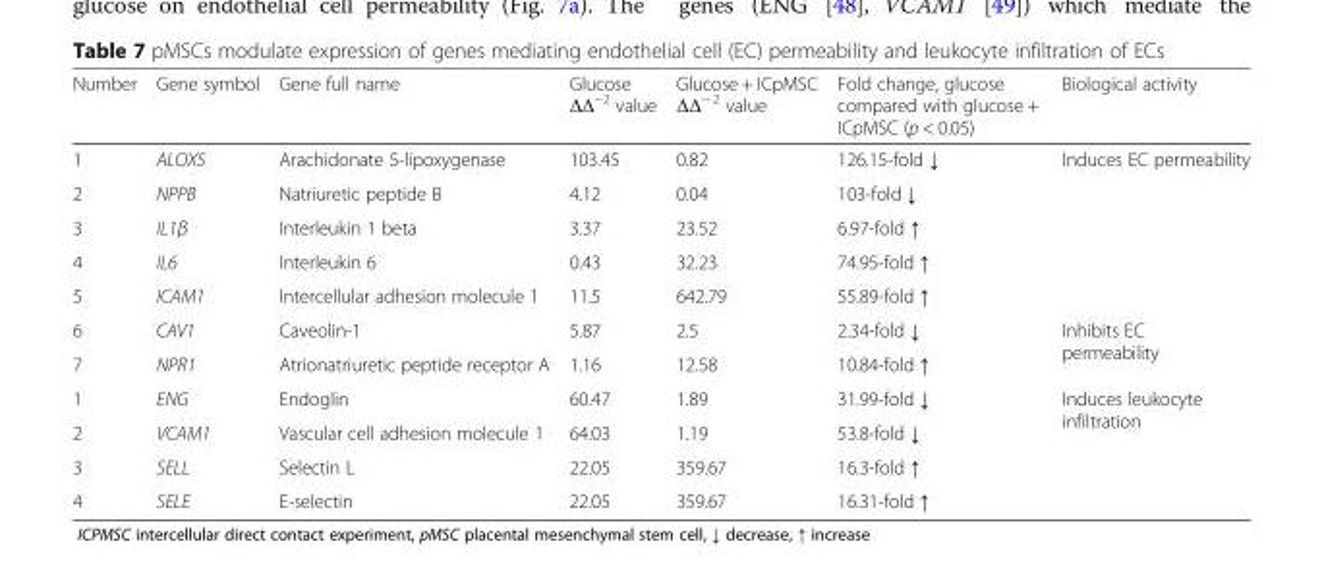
<table><thead><tr><td>Number</td><td>Gene symbol</td><td>Gene full name</td><td>Glucose ΔΔ<sup>−2</sup> value</td><td>Glucose + ICpMSC ΔΔ<sup>− 2</sup> value</td><td>Fold change, glucose compared with glucose + ICpMSC (p &lt; 0.05)</td><td>Biological activity</td></tr></thead><tbody><tr><td>1</td><td>ALOX5</td><td>Arachidonate 5-lipoxygenase</td><td>103.45</td><td>0.82</td><td>126.15-fold ↓</td><td rowspan="5">Induces EC permeability</td></tr><tr><td>2</td><td>NPPB</td><td>Natriuretic peptide B</td><td>4.12</td><td>0.04</td><td>103-fold ↓</td></tr><tr><td>3</td><td>IL1β</td><td>Interleukin 1 beta</td><td>3.37</td><td>23.52</td><td>6.97-fold ↑</td></tr><tr><td>4</td><td>IL6</td><td>Interleukin 6</td><td>0.43</td><td>32.23</td><td>74.95-fold ↑</td></tr><tr><td>5</td><td>ICAM1</td><td>Intercellular adhesion molecule 1</td><td>11.5</td><td>642.79</td><td>55.89-fold ↑</td></tr><tr><td>6</td><td>CAV1</td><td>Caveolin-1</td><td>5.87</td><td>2.5</td><td>2.34-fold ↓</td><td rowspan="2">Inhibits EC permeability</td></tr><tr><td>7</td><td>NPR1</td><td>Atrionatriuretic peptide receptor A</td><td>1.16</td><td>12.58</td><td>10.84-fold ↑</td></tr><tr><td>1</td><td>ENG</td><td>Endoglin</td><td>60.47</td><td>1.89</td><td>31.99-fold ↓</td><td rowspan="4">Induces leukocyte infiltration</td></tr><tr><td>2</td><td>VCAM1</td><td>Vascular cell adhesion molecule 1</td><td>64.03</td><td>1.19</td><td>53.8-fold ↓</td></tr><tr><td>3</td><td>SELL</td><td>Selectin L</td><td>22.05</td><td>359.67</td><td>16.3-fold ↑</td></tr><tr><td>4</td><td>SELE</td><td>E-selectin</td><td>22.05</td><td>359.67</td><td>16.31-fold ↑</td></tr></tbody></table>